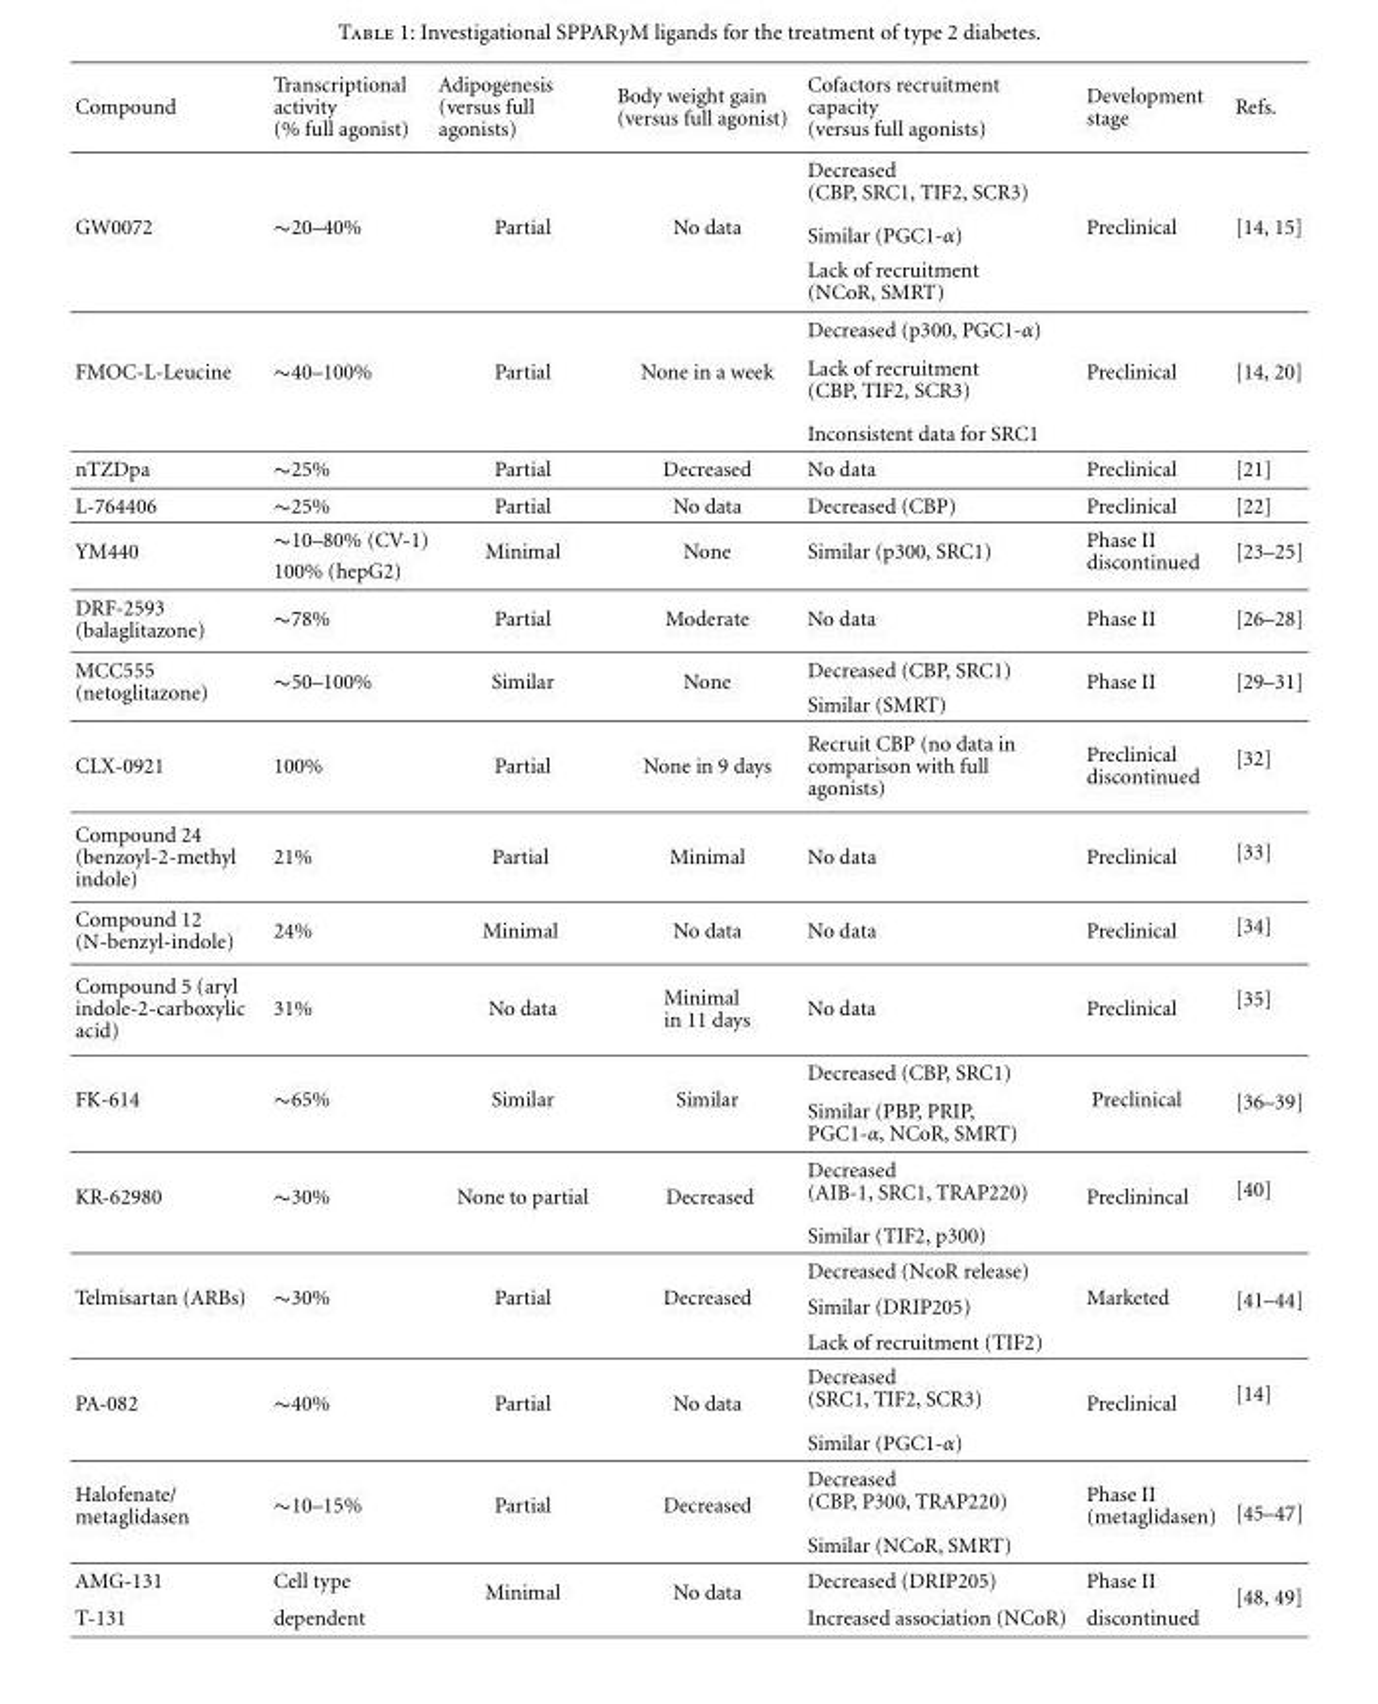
<table><tbody><tr><td>Compound</td><td>Transcriptional activity (% full agonist)</td><td>Adipogenesis (versus full agonists)</td><td>Body weight gain (versus full agonist)</td><td>Cofactors recruitment capacity (versus full agonists)</td><td>Development stage</td><td>Refs.</td></tr><tr><td rowspan="3">GW0072</td><td rowspan="3">∼20–40%</td><td rowspan="3">Partial</td><td rowspan="3">No data</td><td>Decreased (CBP, SRC1, TIF2, SCR3)</td><td rowspan="3">Preclinical</td><td rowspan="3">[14, 15]</td></tr><tr><td>Similar (PGC1-α)</td></tr><tr><td>Lack of recruitment (NCoR, SMRT)</td></tr><tr><td rowspan="3">FMOC-L-Leucine</td><td rowspan="3">∼40–100%</td><td rowspan="3">Partial</td><td rowspan="3">None in a week</td><td>Decreased (p300, PGC1-α)</td><td rowspan="3">Preclinical</td><td rowspan="3">[14, 20]</td></tr><tr><td>Lack of recruitment (CBP, TIF2, SCR3)</td></tr><tr><td>Inconsistent data for SRC1</td></tr><tr><td>nTZDpa</td><td>∼25%</td><td>Partial</td><td>Decreased</td><td>No data</td><td>Preclinical</td><td>[21]</td></tr><tr><td>L-764406</td><td>∼25%</td><td>Partial</td><td>No data</td><td>Decreased (CBP)</td><td>Preclinical</td><td>[22]</td></tr><tr><td rowspan="2">YM440</td><td>∼10–80% (CV-1)</td><td rowspan="2">Minimal</td><td rowspan="2">None</td><td rowspan="2">Similar (p300, SRC1)</td><td rowspan="2">Phase II discontinued</td><td rowspan="2">[23–25]</td></tr><tr><td>100% (hepG2)</td></tr><tr><td>DRF-2593 (balaglitazone)</td><td>∼78%</td><td>Partial</td><td>Moderate</td><td>No data</td><td>Phase II</td><td>[26–28]</td></tr><tr><td rowspan="2">MCC555 (netoglitazone)</td><td rowspan="2">∼50–100%</td><td rowspan="2">Similar</td><td rowspan="2">None</td><td>Decreased (CBP, SRC1)</td><td rowspan="2">Phase II</td><td rowspan="2">[29–31]</td></tr><tr><td>Similar (SMRT)</td></tr><tr><td>CLX-0921</td><td>100%</td><td>Partial</td><td>None in 9 days</td><td>Recruit CBP (no data in comparison with full agonists)</td><td>Preclinical discontinued</td><td>[32]</td></tr><tr><td>Compound 24 (benzoyl-2-methyl indole)</td><td>21%</td><td>Partial</td><td>Minimal</td><td>No data</td><td>Preclinical</td><td>[33]</td></tr><tr><td>Compound 12 (N-benzyl-indole)</td><td>24%</td><td>Minimal</td><td>No data</td><td>No data</td><td>Preclinical</td><td>[34]</td></tr><tr><td>Compound 5 (aryl indole-2-carboxylic acid)</td><td>31%</td><td>No data</td><td>Minimal in 11 days</td><td>No data</td><td>Preclinical</td><td>[35]</td></tr><tr><td rowspan="2">FK-614</td><td rowspan="2">∼65%</td><td rowspan="2">Similar</td><td rowspan="2">Similar</td><td>Decreased (CBP, SRC1)</td><td rowspan="2">Preclinical</td><td rowspan="2">[36–39]</td></tr><tr><td>Similar (PBP, PRIP, PGC1-α, NCoR, SMRT)</td></tr><tr><td rowspan="2">KR-62980</td><td rowspan="2">∼30%</td><td rowspan="2">None to partial</td><td rowspan="2">Decreased</td><td>Decreased (AIB-1, SRC1, TRAP220)</td><td rowspan="2">Preclinincal</td><td rowspan="2">[40]</td></tr><tr><td>Similar (TIF2, p300)</td></tr><tr><td rowspan="3">Telmisartan (ARBs)</td><td rowspan="3">∼30%</td><td rowspan="3">Partial</td><td rowspan="3">Decreased</td><td>Decreased (NcoR release)</td><td rowspan="3">Marketed</td><td rowspan="3">[41–44]</td></tr><tr><td>Similar (DRIP205)</td></tr><tr><td>Lack of recruitment (TIF2)</td></tr><tr><td rowspan="2">PA-082</td><td rowspan="2">∼40%</td><td rowspan="2">Partial</td><td rowspan="2">No data</td><td>Decreased (SRC1, TIF2, SCR3)</td><td rowspan="2">Preclinical</td><td rowspan="2">[14]</td></tr><tr><td>Similar (PGC1-α)</td></tr><tr><td rowspan="2">Halofenate/ metaglidasen</td><td rowspan="2">∼10–15%</td><td rowspan="2">Partial</td><td rowspan="2">Decreased</td><td>Decreased (CBP, P300, TRAP220)</td><td rowspan="2">Phase II (metaglidasen)</td><td rowspan="2">[45–47]</td></tr><tr><td>Similar (NCoR, SMRT)</td></tr><tr><td>AMG-131</td><td>Cell type</td><td rowspan="2">Minimal</td><td rowspan="2">No data</td><td>Decreased (DRIP205)</td><td>Phase II</td><td rowspan="2">[48, 49]</td></tr><tr><td>T-131</td><td>dependent</td><td>Increased association (NCoR)</td><td>discontinued</td></tr></tbody></table>